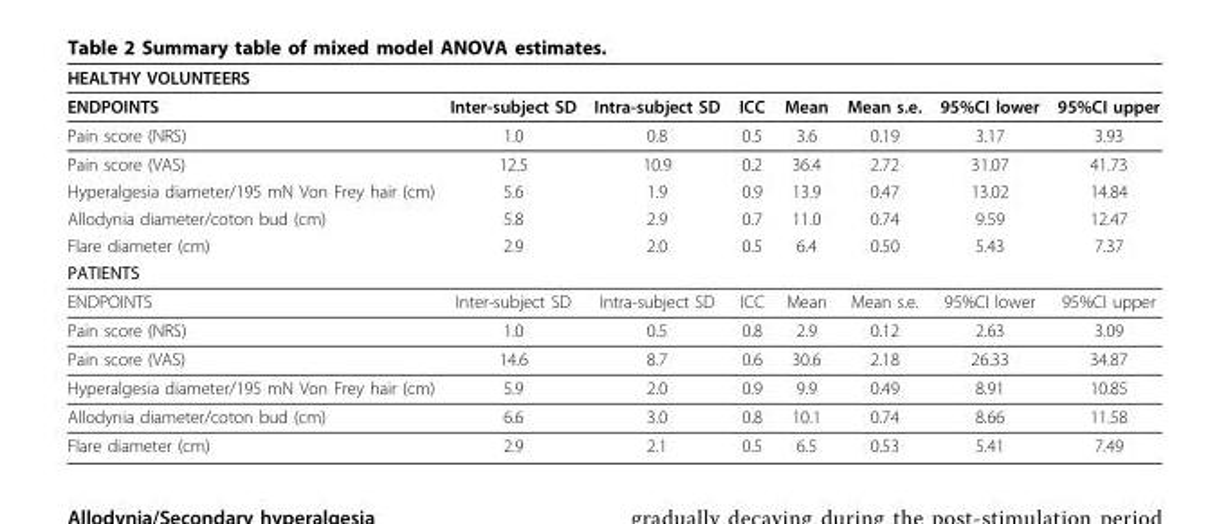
<table><thead><tr><td>HEALTHY VOLUNTEERS</td><td></td><td></td><td></td><td></td><td></td><td></td><td></td></tr></thead><tbody><tr><td>ENDPOINTS</td><td>Inter-subject SD</td><td>Intra-subject SD</td><td>ICC</td><td>Mean</td><td>Mean s.e.</td><td>95%CI lower</td><td>95%CI upper</td></tr><tr><td>Pain score (NRS)</td><td>1.0</td><td>0.8</td><td>0.5</td><td>3.6</td><td>0.19</td><td>3.17</td><td>3.93</td></tr><tr><td>Pain score (VAS)</td><td>12.5</td><td>10.9</td><td>0.2</td><td>36.4</td><td>2.72</td><td>31.07</td><td>41.73</td></tr><tr><td>Hyperalgesia diameter/195 mN Von Frey hair (cm)</td><td>5.6</td><td>1.9</td><td>0.9</td><td>13.9</td><td>0.47</td><td>13.02</td><td>14.84</td></tr><tr><td>Allodynia diameter/coton bud (cm)</td><td>5.8</td><td>2.9</td><td>0.7</td><td>11.0</td><td>0.74</td><td>9.59</td><td>12.47</td></tr><tr><td>Flare diameter (cm)</td><td>2.9</td><td>2.0</td><td>0.5</td><td>6.4</td><td>0.50</td><td>5.43</td><td>7.37</td></tr><tr><td colspan="8">PATIENTS</td></tr><tr><td>ENDPOINTS</td><td>Inter-subject SD</td><td>Intra-subject SD</td><td>ICC</td><td>Mean</td><td>Mean s.e.</td><td>95%CI lower</td><td>95%CI upper</td></tr><tr><td>Pain score (NRS)</td><td>1.0</td><td>0.5</td><td>0.8</td><td>2.9</td><td>0.12</td><td>2.63</td><td>3.09</td></tr><tr><td>Pain score (VAS)</td><td>14.6</td><td>8.7</td><td>0.6</td><td>30.6</td><td>2.18</td><td>26.33</td><td>34.87</td></tr><tr><td>Hyperalgesia diameter/195 mN Von Frey hair (cm)</td><td>5.9</td><td>2.0</td><td>0.9</td><td>9.9</td><td>0.49</td><td>8.91</td><td>10.85</td></tr><tr><td>Allodynia diameter/coton bud (cm)</td><td>6.6</td><td>3.0</td><td>0.8</td><td>10.1</td><td>0.74</td><td>8.66</td><td>11.58</td></tr><tr><td>Flare diameter (cm)</td><td>2.9</td><td>2.1</td><td>0.5</td><td>6.5</td><td>0.53</td><td>5.41</td><td>7.49</td></tr></tbody></table>